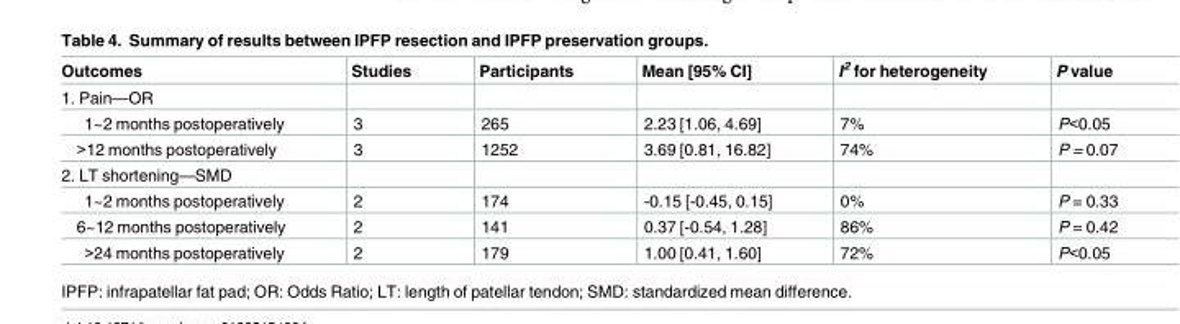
<table><thead><tr><td>Outcomes</td><td>Studies</td><td>Participants</td><td>Mean [95% CI]</td><td>I<sup>2</sup> for heterogeneity</td><td>P value</td></tr></thead><tbody><tr><td colspan="6">1. Pain—OR</td></tr><tr><td>1~2 months postoperatively</td><td>3</td><td>265</td><td>2.23 [1.06, 4.69]</td><td>7%</td><td>P&lt;0.05</td></tr><tr><td>&gt;12 months postoperatively</td><td>3</td><td>1252</td><td>3.69 [0.81, 16.82]</td><td>74%</td><td>P = 0.07</td></tr><tr><td colspan="6">2. LT shortening—SMD</td></tr><tr><td>1~2 months postoperatively</td><td>2</td><td>174</td><td>-0.15 [-0.45, 0.15]</td><td>0%</td><td>P = 0.33</td></tr><tr><td>6~12 months postoperatively</td><td>2</td><td>141</td><td>0.37 [-0.54, 1.28]</td><td>86%</td><td>P = 0.42</td></tr><tr><td>&gt;24 months postoperatively</td><td>2</td><td>179</td><td>1.00 [0.41, 1.60]</td><td>72%</td><td>P&lt;0.05</td></tr></tbody></table>